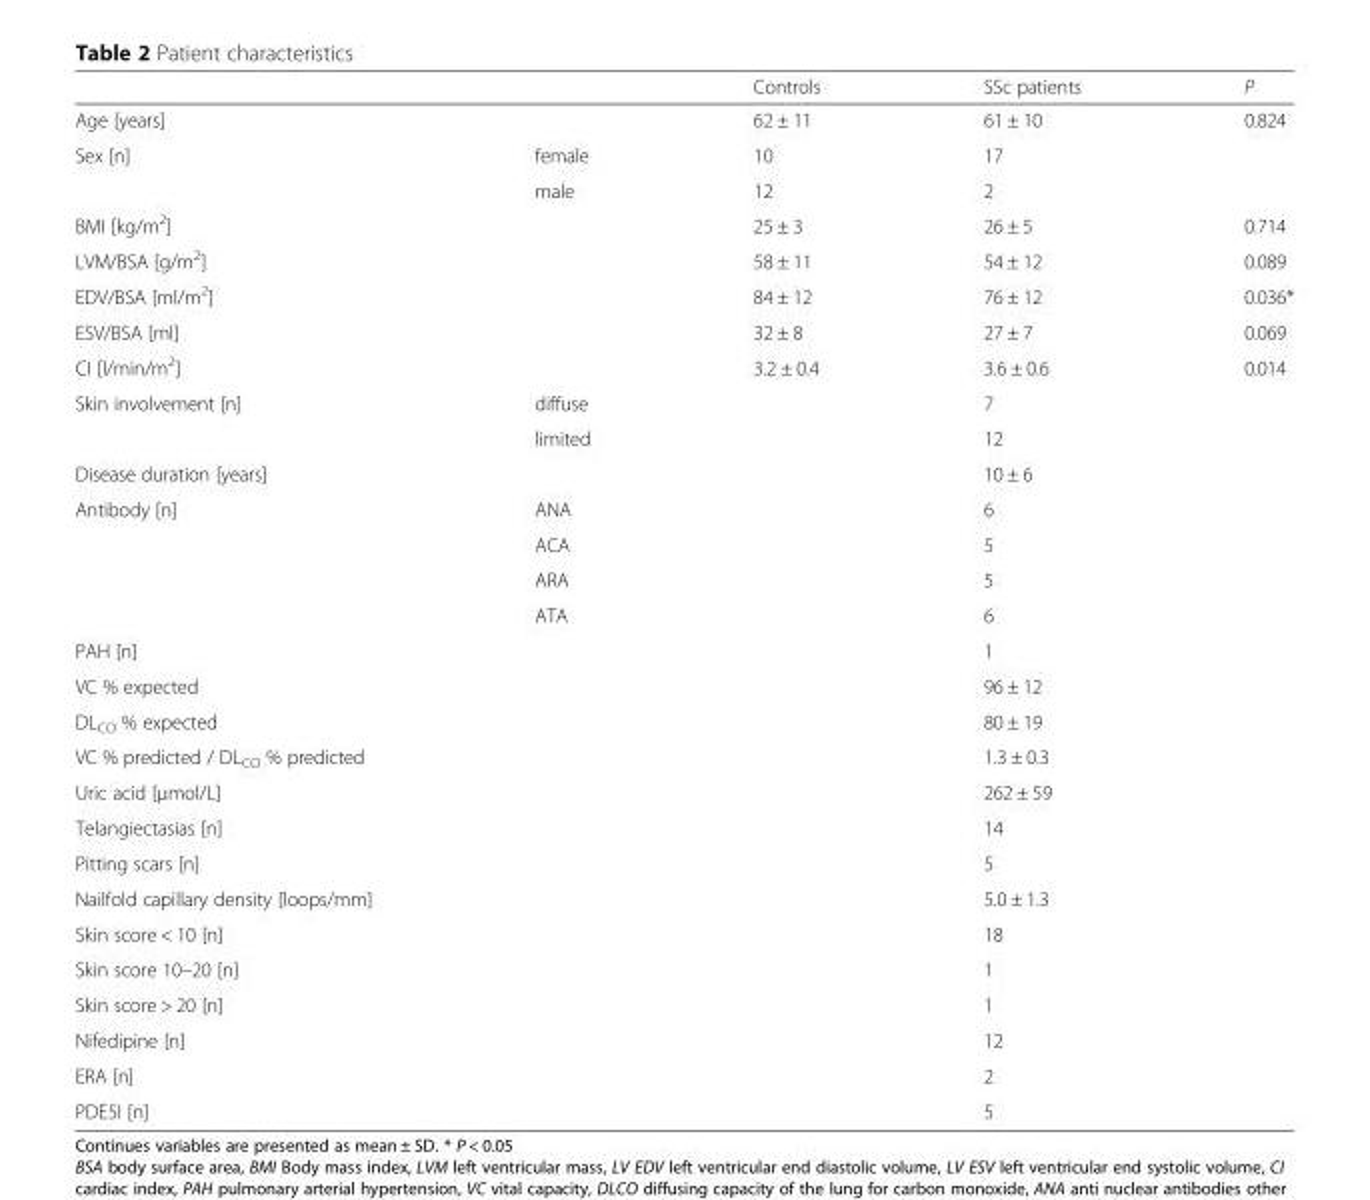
<table><thead><tr><td></td><td></td><td>Controls</td><td>SSc patients</td><td>P</td></tr></thead><tbody><tr><td colspan="2">Age [years]</td><td>62 ± 11</td><td>61 ± 10</td><td>0.824</td></tr><tr><td rowspan="2">Sex [n]</td><td>female</td><td>10</td><td>17</td><td></td></tr><tr><td>male</td><td>12</td><td>2</td><td></td></tr><tr><td>BMI [kg/m<sup>2</sup>]</td><td></td><td>25 ± 3</td><td>26 ± 5</td><td>0.714</td></tr><tr><td>LVM/BSA [g/m<sup>2</sup>]</td><td></td><td>58 ± 11</td><td>54 ± 12</td><td>0.089</td></tr><tr><td>EDV/BSA [ml/m<sup>2</sup>]</td><td></td><td>84 ± 12</td><td>76 ± 12</td><td>0.036*</td></tr><tr><td>ESV/BSA [ml]</td><td></td><td>32 ± 8</td><td>27 ± 7</td><td>0.069</td></tr><tr><td>CI [l/min/m<sup>2</sup>]</td><td></td><td>3.2 ± 0.4</td><td>3.6 ± 0.6</td><td>0.014</td></tr><tr><td rowspan="2">Skin involvement [n]</td><td>diffuse</td><td></td><td>7</td><td></td></tr><tr><td>limited</td><td></td><td>12</td><td></td></tr><tr><td>Disease duration [years]</td><td></td><td></td><td>10 ± 6</td><td></td></tr><tr><td rowspan="4">Antibody [n]</td><td>ANA</td><td></td><td>6</td><td></td></tr><tr><td>ACA</td><td></td><td>5</td><td></td></tr><tr><td>ARA</td><td></td><td>5</td><td></td></tr><tr><td>ATA</td><td></td><td>6</td><td></td></tr><tr><td>PAH [n]</td><td></td><td></td><td>1</td><td></td></tr><tr><td>VC % expected</td><td></td><td></td><td>96 ± 12</td><td></td></tr><tr><td>DL<sub>CO</sub> % expected</td><td></td><td></td><td>80 ± 19</td><td></td></tr><tr><td>VC % predicted / DL<sub>CO</sub> % predicted</td><td></td><td></td><td>1.3 ± 0.3</td><td></td></tr><tr><td>Uric acid [μmol/L]</td><td></td><td></td><td>262 ± 59</td><td></td></tr><tr><td>Telangiectasias [n]</td><td></td><td></td><td>14</td><td></td></tr><tr><td>Pitting scars [n]</td><td></td><td></td><td>5</td><td></td></tr><tr><td>Nailfold capillary density [loops/mm]</td><td></td><td></td><td>5.0 ± 1.3</td><td></td></tr><tr><td>Skin score &lt; 10 [n]</td><td></td><td></td><td>18</td><td></td></tr><tr><td>Skin score 10–20 [n]</td><td></td><td></td><td>1</td><td></td></tr><tr><td>Skin score &gt; 20 [n]</td><td></td><td></td><td>1</td><td></td></tr><tr><td>Nifedipine [n]</td><td></td><td></td><td>12</td><td></td></tr><tr><td>ERA [n]</td><td></td><td></td><td>2</td><td></td></tr><tr><td>PDE5I [n]</td><td></td><td></td><td>5</td><td></td></tr></tbody></table>